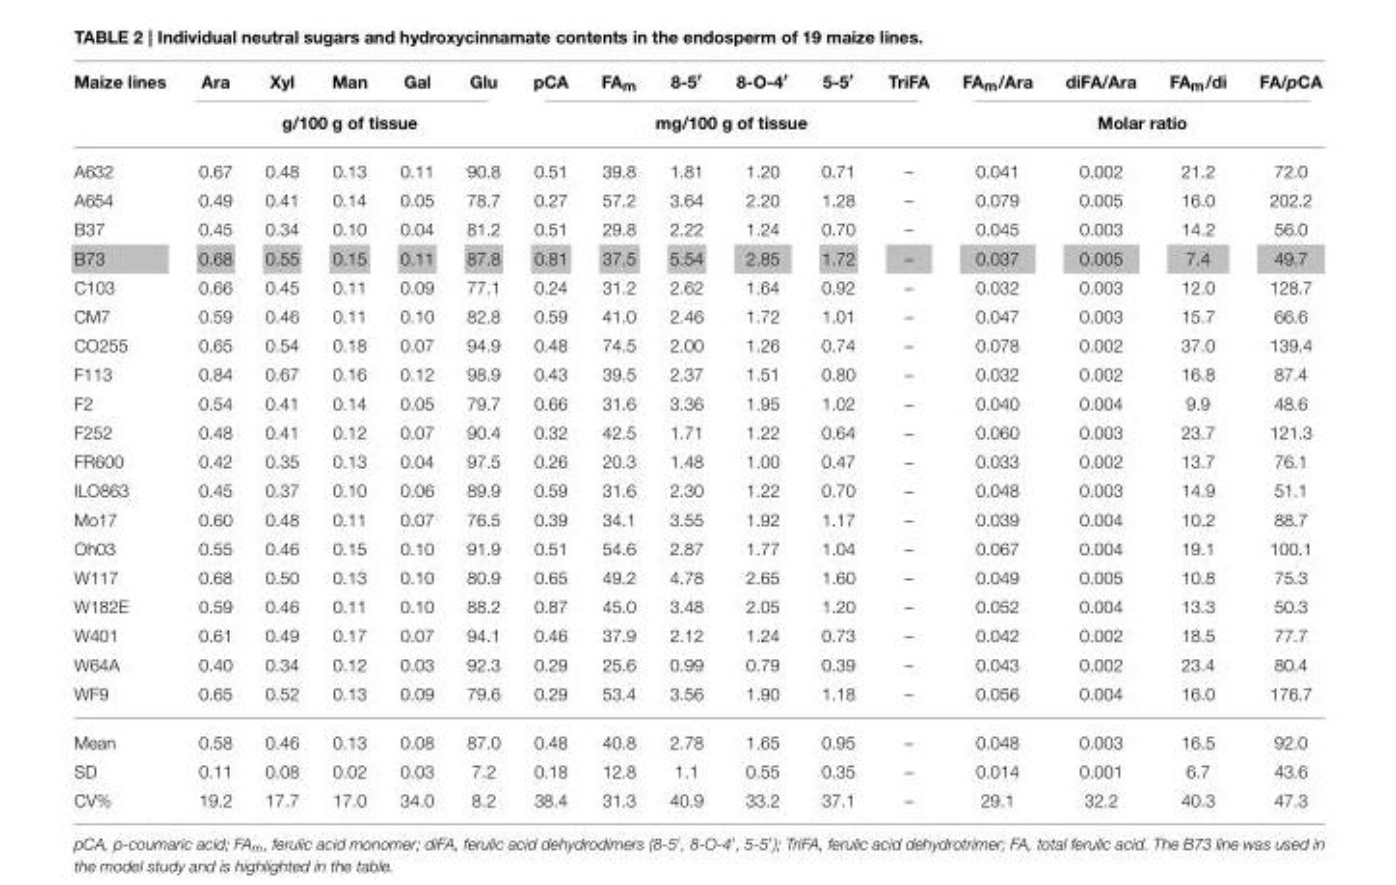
<table><thead><tr><td rowspan="2">Maize lines</td><td>Ara</td><td>Xyl</td><td>Man</td><td>Gal</td><td>Glu</td><td>pCA</td><td>FA<sub>m</sub></td><td>8-5′</td><td>8-O-4′</td><td>5-5′</td><td>TriFA</td><td>FA<sub>m</sub>/Ara</td><td>diFA/Ara</td><td>FA<sub>m</sub>/di</td><td>FA/pCA</td></tr><tr><td colspan="5">g/100 g of tissue</td><td colspan="6">mg/100 g of tissue</td><td colspan="4">Molar ratio</td></tr></thead><tbody><tr><td>A632</td><td>0.67</td><td>0.48</td><td>0.13</td><td>0.11</td><td>90.8</td><td>0.51</td><td>39.8</td><td>1.81</td><td>1.20</td><td>0.71</td><td>–</td><td>0.041</td><td>0.002</td><td>21.2</td><td>72.0</td></tr><tr><td>A654</td><td>0.49</td><td>0.41</td><td>0.14</td><td>0.05</td><td>78.7</td><td>0.27</td><td>57.2</td><td>3.64</td><td>2.20</td><td>1.28</td><td>–</td><td>0.079</td><td>0.005</td><td>16.0</td><td>202.2</td></tr><tr><td>B37</td><td>0.45</td><td>0.34</td><td>0.10</td><td>0.04</td><td>81.2</td><td>0.51</td><td>29.8</td><td>2.22</td><td>1.24</td><td>0.70</td><td>–</td><td>0.045</td><td>0.003</td><td>14.2</td><td>56.0</td></tr><tr><td>B73</td><td>0.68</td><td>0.55</td><td>0.15</td><td>0.11</td><td>87.8</td><td>0.81</td><td>37.5</td><td>5.54</td><td>2.85</td><td>1.72</td><td>–</td><td>0.037</td><td>0.005</td><td>7.4</td><td>49.7</td></tr><tr><td>C103</td><td>0.66</td><td>0.45</td><td>0.11</td><td>0.09</td><td>77.1</td><td>0.24</td><td>31.2</td><td>2.62</td><td>1.64</td><td>0.92</td><td>–</td><td>0.032</td><td>0.003</td><td>12.0</td><td>128.7</td></tr><tr><td>CM7</td><td>0.59</td><td>0.46</td><td>0.11</td><td>0.10</td><td>82.8</td><td>0.59</td><td>41.0</td><td>2.46</td><td>1.72</td><td>1.01</td><td>–</td><td>0.047</td><td>0.003</td><td>15.7</td><td>66.6</td></tr><tr><td>CO255</td><td>0.65</td><td>0.54</td><td>0.18</td><td>0.07</td><td>94.9</td><td>0.48</td><td>74.5</td><td>2.00</td><td>1.26</td><td>0.74</td><td>–</td><td>0.078</td><td>0.002</td><td>37.0</td><td>139.4</td></tr><tr><td>F113</td><td>0.84</td><td>0.67</td><td>0.16</td><td>0.12</td><td>98.9</td><td>0.43</td><td>39.5</td><td>2.37</td><td>1.51</td><td>0.80</td><td>–</td><td>0.032</td><td>0.002</td><td>16.8</td><td>87.4</td></tr><tr><td>F2</td><td>0.54</td><td>0.41</td><td>0.14</td><td>0.05</td><td>79.7</td><td>0.66</td><td>31.6</td><td>3.36</td><td>1.95</td><td>1.02</td><td>–</td><td>0.040</td><td>0.004</td><td>9.9</td><td>48.6</td></tr><tr><td>F252</td><td>0.48</td><td>0.41</td><td>0.12</td><td>0.07</td><td>90.4</td><td>0.32</td><td>42.5</td><td>1.71</td><td>1.22</td><td>0.64</td><td>–</td><td>0.060</td><td>0.003</td><td>23.7</td><td>121.3</td></tr><tr><td>FR600</td><td>0.42</td><td>0.35</td><td>0.13</td><td>0.04</td><td>97.5</td><td>0.26</td><td>20.3</td><td>1.48</td><td>1.00</td><td>0.47</td><td>–</td><td>0.033</td><td>0.002</td><td>13.7</td><td>76.1</td></tr><tr><td>ILO863</td><td>0.45</td><td>0.37</td><td>0.10</td><td>0.06</td><td>89.9</td><td>0.59</td><td>31.6</td><td>2.30</td><td>1.22</td><td>0.70</td><td>–</td><td>0.048</td><td>0.003</td><td>14.9</td><td>51.1</td></tr><tr><td>Mo17</td><td>0.60</td><td>0.48</td><td>0.11</td><td>0.07</td><td>76.5</td><td>0.39</td><td>34.1</td><td>3.55</td><td>1.92</td><td>1.17</td><td>–</td><td>0.039</td><td>0.004</td><td>10.2</td><td>88.7</td></tr><tr><td>Oh03</td><td>0.55</td><td>0.46</td><td>0.15</td><td>0.10</td><td>91.9</td><td>0.51</td><td>54.6</td><td>2.87</td><td>1.77</td><td>1.04</td><td>–</td><td>0.067</td><td>0.004</td><td>19.1</td><td>100.1</td></tr><tr><td>W117</td><td>0.68</td><td>0.50</td><td>0.13</td><td>0.10</td><td>80.9</td><td>0.65</td><td>49.2</td><td>4.78</td><td>2.65</td><td>1.60</td><td>–</td><td>0.049</td><td>0.005</td><td>10.8</td><td>75.3</td></tr><tr><td>W182E</td><td>0.59</td><td>0.46</td><td>0.11</td><td>0.10</td><td>88.2</td><td>0.87</td><td>45.0</td><td>3.48</td><td>2.05</td><td>1.20</td><td>–</td><td>0.052</td><td>0.004</td><td>13.3</td><td>50.3</td></tr><tr><td>W401</td><td>0.61</td><td>0.49</td><td>0.17</td><td>0.07</td><td>94.1</td><td>0.46</td><td>37.9</td><td>2.12</td><td>1.24</td><td>0.73</td><td>–</td><td>0.042</td><td>0.002</td><td>18.5</td><td>77.7</td></tr><tr><td>W64A</td><td>0.40</td><td>0.34</td><td>0.12</td><td>0.03</td><td>92.3</td><td>0.29</td><td>25.6</td><td>0.99</td><td>0.79</td><td>0.39</td><td>–</td><td>0.043</td><td>0.002</td><td>23.4</td><td>80.4</td></tr><tr><td>WF9</td><td>0.65</td><td>0.52</td><td>0.13</td><td>0.09</td><td>79.6</td><td>0.29</td><td>53.4</td><td>3.56</td><td>1.90</td><td>1.18</td><td>–</td><td>0.056</td><td>0.004</td><td>16.0</td><td>176.7</td></tr><tr><td>Mean</td><td>0.58</td><td>0.46</td><td>0.13</td><td>0.08</td><td>87.0</td><td>0.48</td><td>40.8</td><td>2.78</td><td>1.65</td><td>0.95</td><td>–</td><td>0.048</td><td>0.003</td><td>16.5</td><td>92.0</td></tr><tr><td>SD</td><td>0.11</td><td>0.08</td><td>0.02</td><td>0.03</td><td>7.2</td><td>0.18</td><td>12.8</td><td>1.1</td><td>0.55</td><td>0.35</td><td>–</td><td>0.014</td><td>0.001</td><td>6.7</td><td>43.6</td></tr><tr><td>CV%</td><td>19.2</td><td>17.7</td><td>17.0</td><td>34.0</td><td>8.2</td><td>38.4</td><td>31.3</td><td>40.9</td><td>33.2</td><td>37.1</td><td>–</td><td>29.1</td><td>32.2</td><td>40.3</td><td>47.3</td></tr></tbody></table>